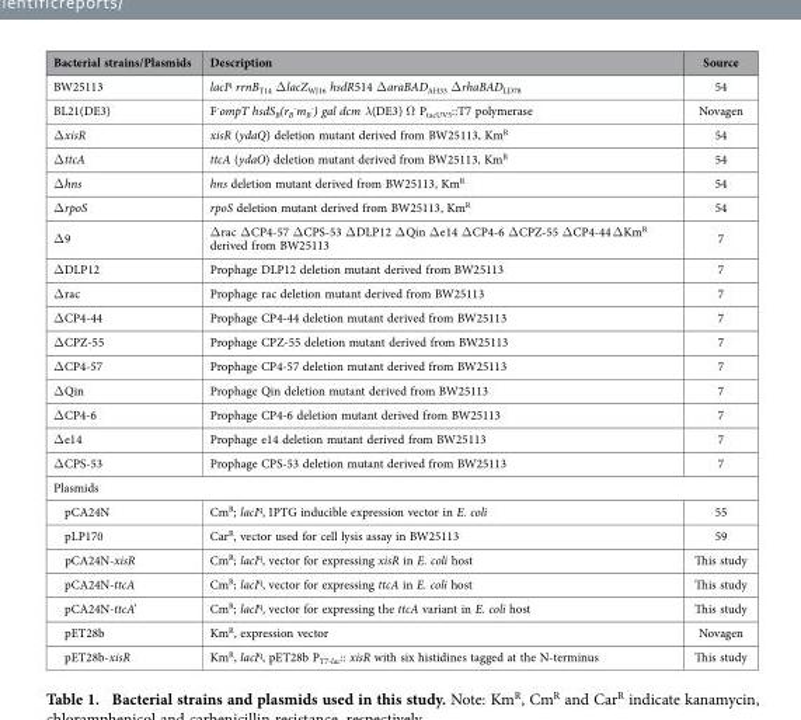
<table><thead><tr><td>Bacterial strains/Plasmids</td><td>Description</td><td>Source</td></tr></thead><tbody><tr><td>BW25113</td><td>lacI<sup>q</sup> rrnB<sub>T14</sub> Δ lacZ<sub>WJ16</sub> hsdR514 Δ araBAD<sub>AH33</sub> Δ rhaBAD<sub>LD78</sub></td><td>54</td></tr><tr><td>BL21(DE3)</td><td>F<sup>-</sup>ompT hsdS<sub>B</sub>(r<sub>B</sub> <sup>-</sup>m<sub>B</sub> <sup>-</sup>) gal dcm λ(DE3) Ω P<sub>tacUV5</sub>::T7 polymerase</td><td>Novagen</td></tr><tr><td>Δ xisR</td><td>xisR (ydaQ) deletion mutant derived from BW25113, Km<sup>R</sup></td><td>54</td></tr><tr><td>Δ ttcA</td><td>ttcA (ydaO) deletion mutant derived from BW25113, Km<sup>R</sup></td><td>54</td></tr><tr><td>Δ hns</td><td>hns deletion mutant derived from BW25113, Km<sup>R</sup></td><td>54</td></tr><tr><td>Δ rpoS</td><td>rpoS deletion mutant derived from BW25113, Km<sup>R</sup></td><td>54</td></tr><tr><td>Δ 9</td><td>Δ rac Δ CP4-57 Δ CPS-53 Δ DLP12 Δ Qin Δ e14 Δ CP4-6 Δ CPZ-55 Δ CP4-44 Δ Km<sup>R</sup> derived from BW25113</td><td>7</td></tr><tr><td>Δ DLP12</td><td>Prophage DLP12 deletion mutant derived from BW25113</td><td>7</td></tr><tr><td>Δ rac</td><td>Prophage rac deletion mutant derived from BW25113</td><td>7</td></tr><tr><td>Δ CP4-44</td><td>Prophage CP4-44 deletion mutant derived from BW25113</td><td>7</td></tr><tr><td>Δ CPZ-55</td><td>Prophage CPZ-55 deletion mutant derived from BW25113</td><td>7</td></tr><tr><td>Δ CP4-57</td><td>Prophage CP4-57 deletion mutant derived from BW25113</td><td>7</td></tr><tr><td>Δ Qin</td><td>Prophage Qin deletion mutant derived from BW25113</td><td>7</td></tr><tr><td>Δ CP4-6</td><td>Prophage CP4-6 deletion mutant derived from BW25113</td><td>7</td></tr><tr><td>Δ e14</td><td>Prophage e14 deletion mutant derived from BW25113</td><td>7</td></tr><tr><td>Δ CPS-53</td><td>Prophage CPS-53 deletion mutant derived from BW25113</td><td>7</td></tr><tr><td colspan="3">Plasmids</td></tr><tr><td>pCA24N</td><td>Cm<sup>R</sup>; lacI<sup>q</sup>, IPTG inducible expression vector in E. coli</td><td>55</td></tr><tr><td>pLP170</td><td>Car<sup>R</sup>, vector used for cell lysis assay in BW25113</td><td>59</td></tr><tr><td>pCA24N-xisR</td><td>Cm<sup>R</sup>; lacI<sup>q</sup>, vector for expressing xisR in E. coli host</td><td>This study</td></tr><tr><td>pCA24N-ttcA</td><td>Cm<sup>R</sup>; lacI<sup>q</sup>, vector for expressing ttcA in E. coli host</td><td>This study</td></tr><tr><td>pCA24N-ttcA’</td><td>Cm<sup>R</sup>; lacI<sup>q</sup>, vector for expressing the ttcA variant in E. coli host</td><td>This study</td></tr><tr><td>pET28b</td><td>Km<sup>R</sup>, expression vector</td><td>Novagen</td></tr><tr><td>pET28b-xisR</td><td>Km<sup>R</sup>, lacI<sup>q</sup>, pET28b P<sub>T7-lac</sub>:: xisR with six histidines tagged at the N-terminus</td><td>This study</td></tr></tbody></table>